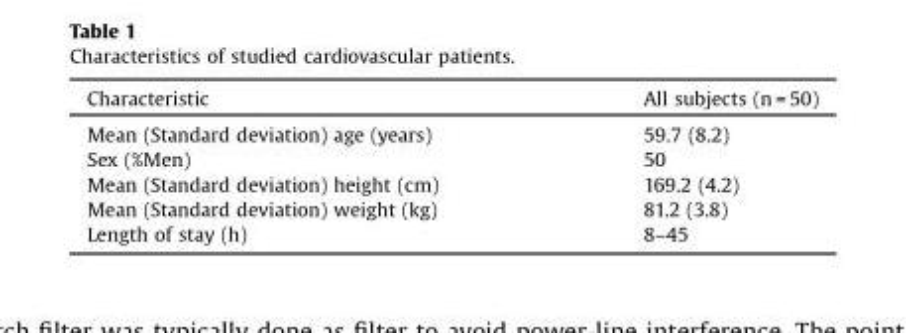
<table><thead><tr><td>Characteristic</td><td>All subjects (n = 50)</td></tr></thead><tbody><tr><td>Mean (Standard deviation) age (years)</td><td>59.7 (8.2)</td></tr><tr><td>Sex (%Men)</td><td>50</td></tr><tr><td>Mean (Standard deviation) height (cm)</td><td>169.2 (4.2)</td></tr><tr><td>Mean (Standard deviation) weight (kg)</td><td>81.2 (3.8)</td></tr><tr><td>Length of stay (h)</td><td>8–45</td></tr></tbody></table>